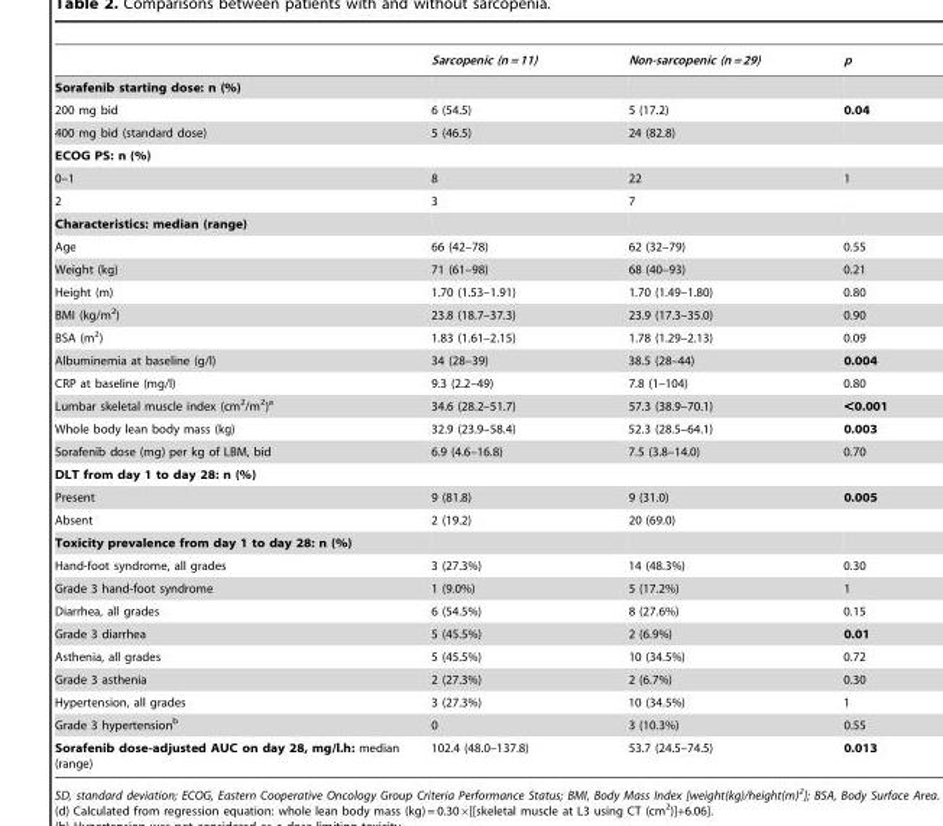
<table><thead><tr><td></td><td>Sarcopenic (n = 11)</td><td>Non-sarcopenic (n = 29)</td><td>p</td></tr></thead><tbody><tr><td colspan="4">Sorafenib starting dose: n (%)</td></tr><tr><td>200 mg bid</td><td>6 (54.5)</td><td>5 (17.2)</td><td>0.04</td></tr><tr><td>400 mg bid (standard dose)</td><td>5 (46.5)</td><td>24 (82.8)</td><td></td></tr><tr><td colspan="4">ECOG PS: n (%)</td></tr><tr><td>0–1</td><td>8</td><td>22</td><td>1</td></tr><tr><td>2</td><td>3</td><td>7</td><td></td></tr><tr><td colspan="4">Characteristics: median (range)</td></tr><tr><td>Age</td><td>66 (42–78)</td><td>62 (32–79)</td><td>0.55</td></tr><tr><td>Weight (kg)</td><td>71 (61–98)</td><td>68 (40–93)</td><td>0.21</td></tr><tr><td>Height (m)</td><td>1.70 (1.53–1.91)</td><td>1.70 (1.49–1.80)</td><td>0.80</td></tr><tr><td>BMI (kg/m<sup>2</sup>)</td><td>23.8 (18.7–37.3)</td><td>23.9 (17.3–35.0)</td><td>0.90</td></tr><tr><td>BSA (m<sup>2</sup>)</td><td>1.83 (1.61–2.15)</td><td>1.78 (1.29–2.13)</td><td>0.09</td></tr><tr><td>Albuminemia at baseline (g/l)</td><td>34 (28–39)</td><td>38.5 (28–44)</td><td>0.004</td></tr><tr><td>CRP at baseline (mg/l)</td><td>9.3 (2.2–49)</td><td>7.8 (1–104)</td><td>0.80</td></tr><tr><td>Lumbar skeletal muscle index (cm<sup>2</sup>/m<sup>2</sup>)<sup>a</sup></td><td>34.6 (28.2–51.7)</td><td>57.3 (38.9–70.1)</td><td>&lt;0.001</td></tr><tr><td>Whole body lean body mass (kg)</td><td>32.9 (23.9–58.4)</td><td>52.3 (28.5–64.1)</td><td>0.003</td></tr><tr><td>Sorafenib dose (mg) per kg of LBM, bid</td><td>6.9 (4.6–16.8)</td><td>7.5 (3.8–14.0)</td><td>0.70</td></tr><tr><td colspan="4">DLT from day 1 to day 28: n (%)</td></tr><tr><td>Present</td><td>9 (81.8)</td><td>9 (31.0)</td><td>0.005</td></tr><tr><td>Absent</td><td>2 (19.2)</td><td>20 (69.0)</td><td></td></tr><tr><td colspan="4">Toxicity prevalence from day 1 to day 28: n (%)</td></tr><tr><td>Hand-foot syndrome, all grades</td><td>3 (27.3%)</td><td>14 (48.3%)</td><td>0.30</td></tr><tr><td>Grade 3 hand-foot syndrome</td><td>1 (9.0%)</td><td>5 (17.2%)</td><td>1</td></tr><tr><td>Diarrhea, all grades</td><td>6 (54.5%)</td><td>8 (27.6%)</td><td>0.15</td></tr><tr><td>Grade 3 diarrhea</td><td>5 (45.5%)</td><td>2 (6.9%)</td><td>0.01</td></tr><tr><td>Asthenia, all grades</td><td>5 (45.5%)</td><td>10 (34.5%)</td><td>0.72</td></tr><tr><td>Grade 3 asthenia</td><td>2 (27.3%)</td><td>2 (6.7%)</td><td>0.30</td></tr><tr><td>Hypertension, all grades</td><td>3 (27.3%)</td><td>10 (34.5%)</td><td>1</td></tr><tr><td>Grade 3 hypertension<sup>b</sup></td><td>0</td><td>3 (10.3%)</td><td>0.55</td></tr><tr><td>Sorafenib dose-adjusted AUC on day 28, mg/l.h: median (range)</td><td>102.4 (48.0–137.8)</td><td>53.7 (24.5–74.5)</td><td>0.013</td></tr></tbody></table>